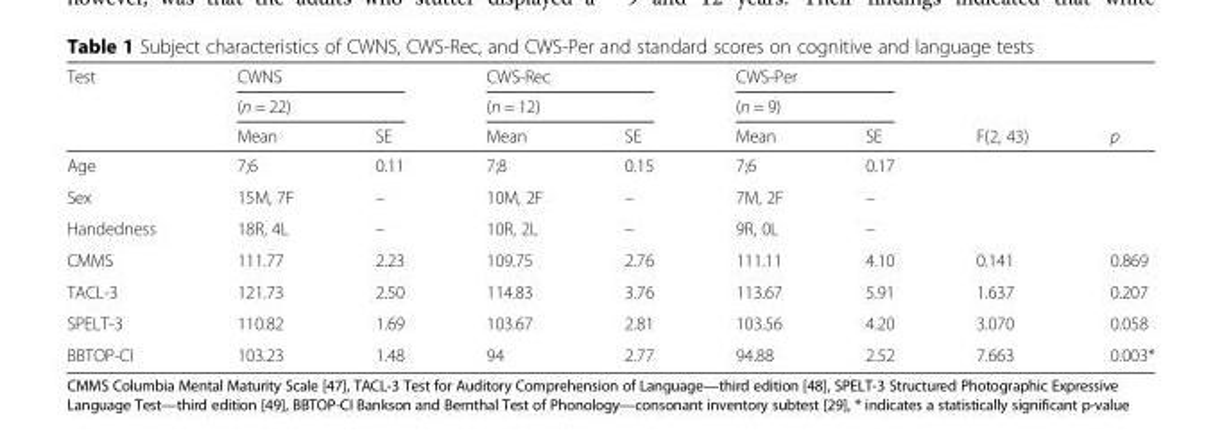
<table><thead><tr><td rowspan="3">Test</td><td rowspan="2" colspan="2">CWNS (n = 22)</td><td rowspan="2" colspan="2">CWS-Rec (n = 12)</td><td rowspan="2" colspan="2">CWS-Per (n = 9)</td><td rowspan="3">F(2, 43)</td><td rowspan="3">p</td></tr><tr></tr><tr><td>Mean</td><td>SE</td><td>Mean</td><td>SE</td><td>Mean</td><td>SE</td></tr></thead><tbody><tr><td>Age</td><td>7;6</td><td>0.11</td><td>7;8</td><td>0.15</td><td>7;6</td><td>0.17</td><td></td><td></td></tr><tr><td>Sex</td><td>15M, 7F</td><td>–</td><td>10M, 2F</td><td>–</td><td>7M, 2F</td><td>–</td><td></td><td></td></tr><tr><td>Handedness</td><td>18R, 4L</td><td>–</td><td>10R, 2L</td><td>–</td><td>9R, 0L</td><td>–</td><td></td><td></td></tr><tr><td>CMMS</td><td>111.77</td><td>2.23</td><td>109.75</td><td>2.76</td><td>111.11</td><td>4.10</td><td>0.141</td><td>0.869</td></tr><tr><td>TACL-3</td><td>121.73</td><td>2.50</td><td>114.83</td><td>3.76</td><td>113.67</td><td>5.91</td><td>1.637</td><td>0.207</td></tr><tr><td>SPELT-3</td><td>110.82</td><td>1.69</td><td>103.67</td><td>2.81</td><td>103.56</td><td>4.20</td><td>3.070</td><td>0.058</td></tr><tr><td>BBTOP-CI</td><td>103.23</td><td>1.48</td><td>94</td><td>2.77</td><td>94.88</td><td>2.52</td><td>7.663</td><td>0.003*</td></tr></tbody></table>